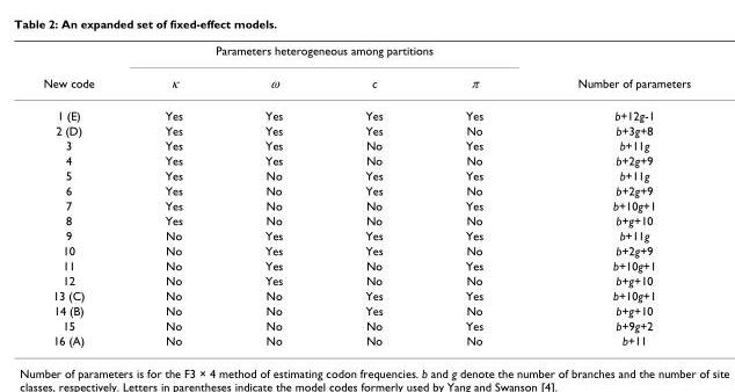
<table><thead><tr><td rowspan="2">New code</td><td colspan="4">Parameters heterogeneous among partitions</td><td rowspan="2">Number of parameters</td></tr><tr><td>κ</td><td>ω</td><td>c</td><td>π</td></tr></thead><tbody><tr><td>1 (E)</td><td>Yes</td><td>Yes</td><td>Yes</td><td>Yes</td><td>b+12g-1</td></tr><tr><td>2 (D)</td><td>Yes</td><td>Yes</td><td>Yes</td><td>No</td><td>b+3g+8</td></tr><tr><td>3</td><td>Yes</td><td>Yes</td><td>No</td><td>Yes</td><td>b+11g</td></tr><tr><td>4</td><td>Yes</td><td>Yes</td><td>No</td><td>No</td><td>b+2g+9</td></tr><tr><td>5</td><td>Yes</td><td>No</td><td>Yes</td><td>Yes</td><td>b+11g</td></tr><tr><td>6</td><td>Yes</td><td>No</td><td>Yes</td><td>No</td><td>b+2g+9</td></tr><tr><td>7</td><td>Yes</td><td>No</td><td>No</td><td>Yes</td><td>b+10g+1</td></tr><tr><td>8</td><td>Yes</td><td>No</td><td>No</td><td>No</td><td>b+g+10</td></tr><tr><td>9</td><td>No</td><td>Yes</td><td>Yes</td><td>Yes</td><td>b+11g</td></tr><tr><td>10</td><td>No</td><td>Yes</td><td>Yes</td><td>No</td><td>b+2g+9</td></tr><tr><td>11</td><td>No</td><td>Yes</td><td>No</td><td>Yes</td><td>b+10g+1</td></tr><tr><td>12</td><td>No</td><td>Yes</td><td>No</td><td>No</td><td>b+g+10</td></tr><tr><td>13 (C)</td><td>No</td><td>No</td><td>Yes</td><td>Yes</td><td>b+10g+1</td></tr><tr><td>14 (B)</td><td>No</td><td>No</td><td>Yes</td><td>No</td><td>b+g+10</td></tr><tr><td>15</td><td>No</td><td>No</td><td>No</td><td>Yes</td><td>b+9g+2</td></tr><tr><td>16 (A)</td><td>No</td><td>No</td><td>No</td><td>No</td><td>b+11</td></tr></tbody></table>